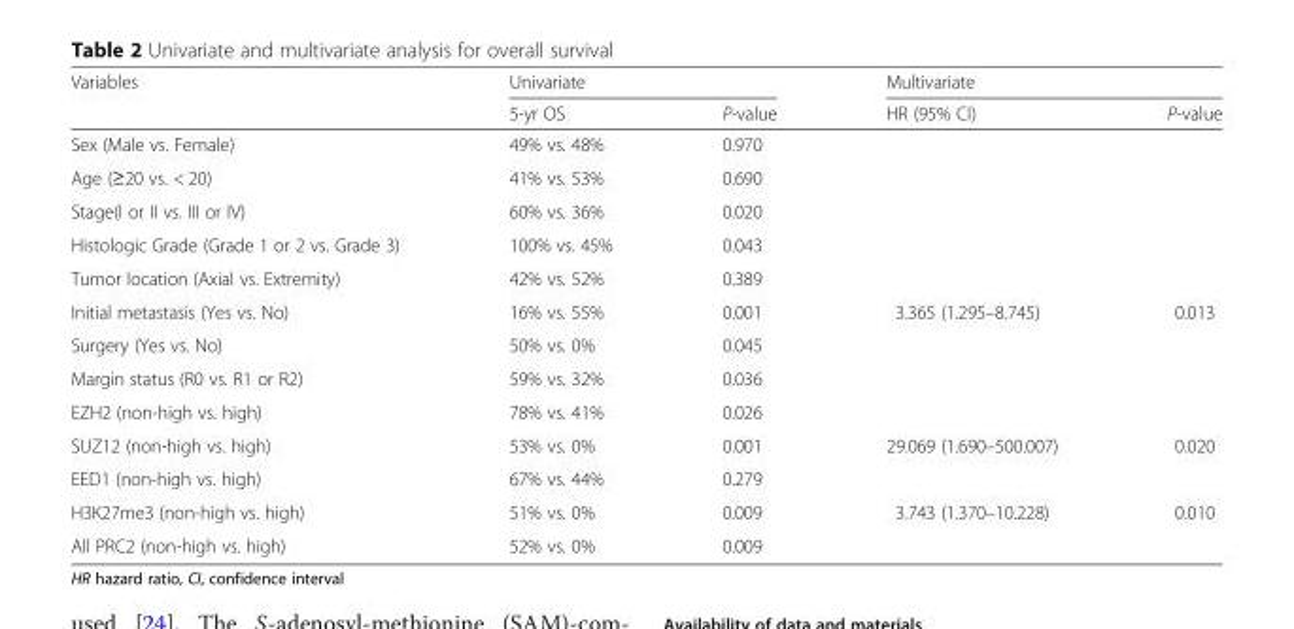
<table><thead><tr><td rowspan="2">Variables</td><td colspan="2">Univariate</td><td colspan="2">Multivariate</td></tr><tr><td>5-yr OS</td><td>P-value</td><td>HR (95% CI)</td><td>P-value</td></tr></thead><tbody><tr><td>Sex (Male vs. Female)</td><td>49% vs. 48%</td><td>0.970</td><td></td><td></td></tr><tr><td>Age (≥20 vs. &lt; 20)</td><td>41% vs. 53%</td><td>0.690</td><td></td><td></td></tr><tr><td>Stage(I or II vs. III or IV)</td><td>60% vs. 36%</td><td>0.020</td><td></td><td></td></tr><tr><td>Histologic Grade (Grade 1 or 2 vs. Grade 3)</td><td>100% vs. 45%</td><td>0.043</td><td></td><td></td></tr><tr><td>Tumor location (Axial vs. Extremity)</td><td>42% vs. 52%</td><td>0.389</td><td></td><td></td></tr><tr><td>Initial metastasis (Yes vs. No)</td><td>16% vs. 55%</td><td>0.001</td><td>3.365 (1.295–8.745)</td><td>0.013</td></tr><tr><td>Surgery (Yes vs. No)</td><td>50% vs. 0%</td><td>0.045</td><td></td><td></td></tr><tr><td>Margin status (R0 vs. R1 or R2)</td><td>59% vs. 32%</td><td>0.036</td><td></td><td></td></tr><tr><td>EZH2 (non-high vs. high)</td><td>78% vs. 41%</td><td>0.026</td><td></td><td></td></tr><tr><td>SUZ12 (non-high vs. high)</td><td>53% vs. 0%</td><td>0.001</td><td>29.069 (1.690–500.007)</td><td>0.020</td></tr><tr><td>EED1 (non-high vs. high)</td><td>67% vs. 44%</td><td>0.279</td><td></td><td></td></tr><tr><td>H3K27me3 (non-high vs. high)</td><td>51% vs. 0%</td><td>0.009</td><td>3.743 (1.370–10.228)</td><td>0.010</td></tr><tr><td>All PRC2 (non-high vs. high)</td><td>52% vs. 0%</td><td>0.009</td><td></td><td></td></tr></tbody></table>